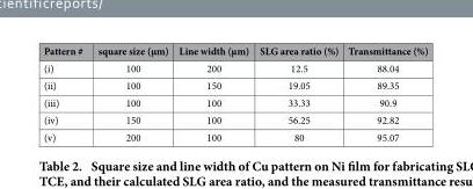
<table><thead><tr><td>Pattern #</td><td>square size (μm)</td><td>Line width (μm)</td><td>SLG area ratio (%)</td><td>Transmittance (%)</td></tr></thead><tbody><tr><td>(i)</td><td>100</td><td>200</td><td>12.5</td><td>88.04</td></tr><tr><td>(ii)</td><td>100</td><td>150</td><td>19.05</td><td>89.35</td></tr><tr><td>(iii)</td><td>100</td><td>100</td><td>33.33</td><td>90.9</td></tr><tr><td>(iv)</td><td>150</td><td>100</td><td>56.25</td><td>92.82</td></tr><tr><td>(v)</td><td>200</td><td>100</td><td>80</td><td>95.07</td></tr></tbody></table>